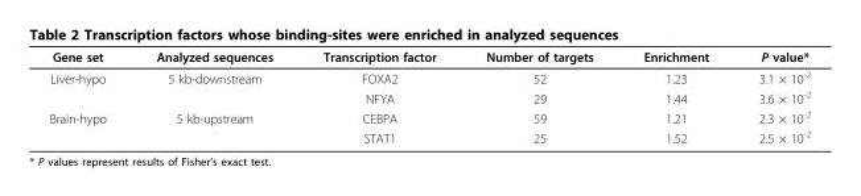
<table><thead><tr><td>Gene set</td><td>Analyzed sequences</td><td>Transcription factor</td><td>Number of targets</td><td>Enrichment</td><td>P value*</td></tr></thead><tbody><tr><td rowspan="2">Liver-hypo</td><td>5 kb-downstream</td><td>FOXA2</td><td>52</td><td>1.23</td><td>3.1 × 10<sup>-2</sup></td></tr><tr><td></td><td>NFYA</td><td>29</td><td>1.44</td><td>3.6 × 10<sup>-2</sup></td></tr><tr><td rowspan="2">Brain-hypo</td><td>5 kb-upstream</td><td>CEBPA</td><td>59</td><td>1.21</td><td>2.3 × 10<sup>-2</sup></td></tr><tr><td></td><td>STAT1</td><td>25</td><td>1.52</td><td>2.5 × 10<sup>-2</sup></td></tr></tbody></table>